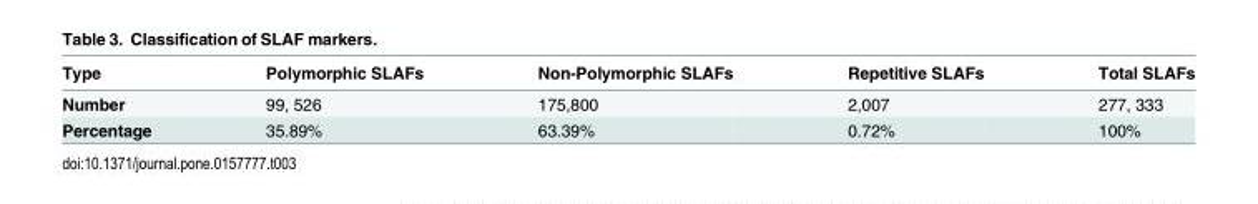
<table><thead><tr><td>Type</td><td>Polymorphic SLAFs</td><td>Non-Polymorphic SLAFs</td><td>Repetitive SLAFs</td><td>Total SLAFs</td></tr></thead><tbody><tr><td>Number</td><td>99, 526</td><td>175,800</td><td>2,007</td><td>277, 333</td></tr><tr><td>Percentage</td><td>35.89%</td><td>63.39%</td><td>0.72%</td><td>100%</td></tr></tbody></table>